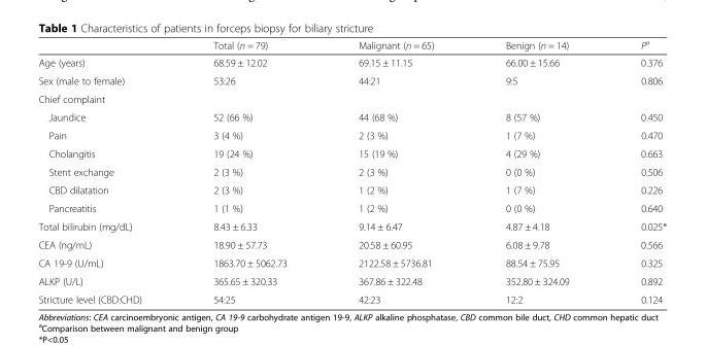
<table><thead><tr><td></td><td>Total (n = 79)</td><td>Malignant (n = 65)</td><td>Benign (n = 14)</td><td>P<sup>a</sup></td></tr></thead><tbody><tr><td>Age (years)</td><td>68.59 ± 12.02</td><td>69.15 ± 11.15</td><td>66.00 ± 15.66</td><td>0.376</td></tr><tr><td>Sex (male to female)</td><td>53:26</td><td>44:21</td><td>9:5</td><td>0.806</td></tr><tr><td colspan="5">Chief complaint</td></tr><tr><td>Jaundice</td><td>52 (66 %)</td><td>44 (68 %)</td><td>8 (57 %)</td><td>0.450</td></tr><tr><td>Pain</td><td>3 (4 %)</td><td>2 (3 %)</td><td>1 (7 %)</td><td>0.470</td></tr><tr><td>Cholangitis</td><td>19 (24 %)</td><td>15 (19 %)</td><td>4 (29 %)</td><td>0.663</td></tr><tr><td>Stent exchange</td><td>2 (3 %)</td><td>2 (3 %)</td><td>0 (0 %)</td><td>0.506</td></tr><tr><td>CBD dilatation</td><td>2 (3 %)</td><td>1 (2 %)</td><td>1 (7 %)</td><td>0.226</td></tr><tr><td>Pancreatitis</td><td>1 (1 %)</td><td>1 (2 %)</td><td>0 (0 %)</td><td>0.640</td></tr><tr><td>Total bilirubin (mg/dL)</td><td>8.43 ± 6.33</td><td>9.14 ± 6.47</td><td>4.87 ± 4.18</td><td>0.025*</td></tr><tr><td>CEA (ng/mL)</td><td>18.90 ± 57.73</td><td>20.58 ± 60.95</td><td>6.08 ± 9.78</td><td>0.566</td></tr><tr><td>CA 19-9 (U/mL)</td><td>1863.70 ± 5062.73</td><td>2122.58 ± 5736.81</td><td>88.54 ± 75.95</td><td>0.325</td></tr><tr><td>ALKP (U/L)</td><td>365.65 ± 320.33</td><td>367.86 ± 322.48</td><td>352.80 ± 324.09</td><td>0.892</td></tr><tr><td>Stricture level (CBD:CHD)</td><td>54:25</td><td>42:23</td><td>12:2</td><td>0.124</td></tr></tbody></table>